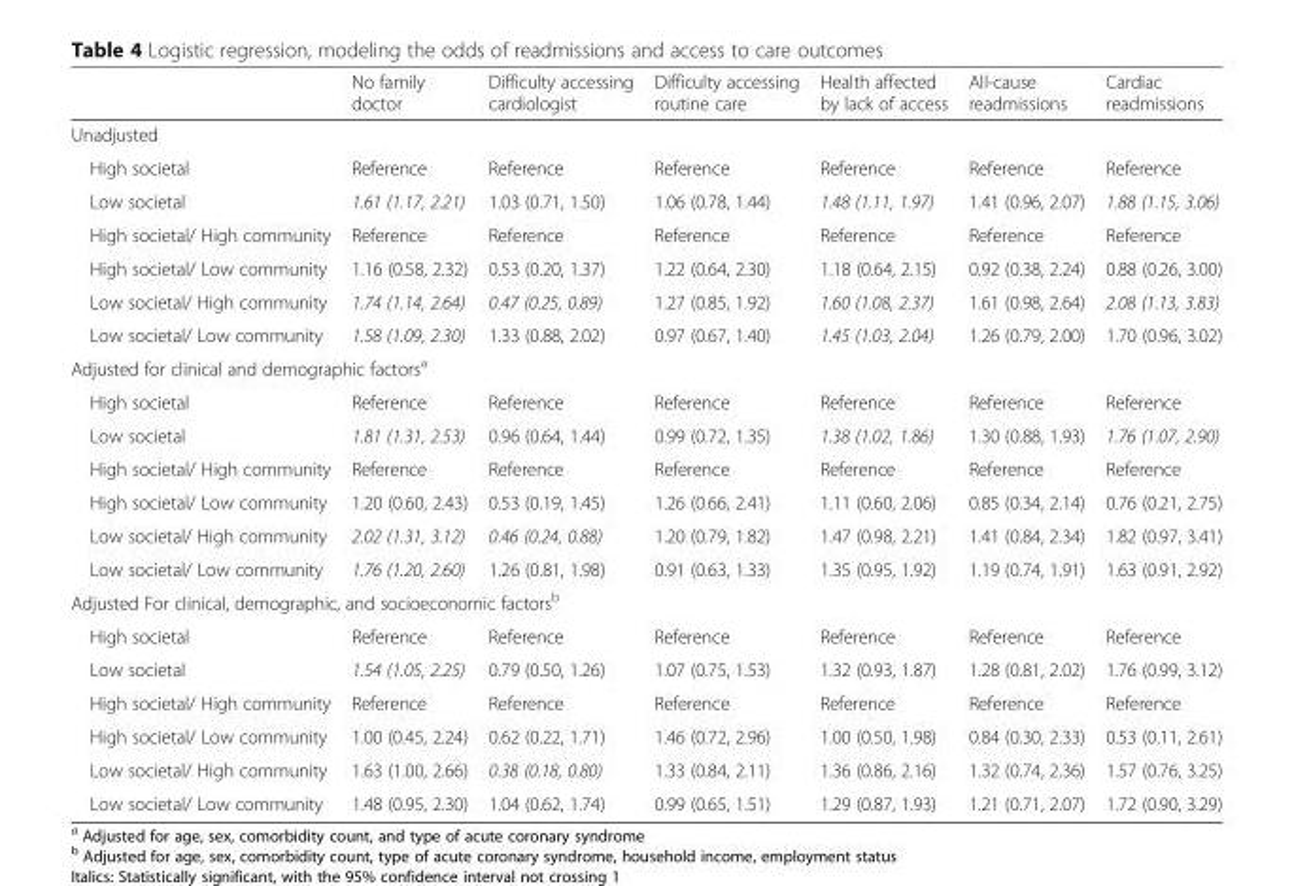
<table><thead><tr><td></td><td>No family doctor</td><td>Difficulty accessing cardiologist</td><td>Difficulty accessing routine care</td><td>Health affected by lack of access</td><td>All-cause readmissions</td><td>Cardiac readmissions</td></tr></thead><tbody><tr><td colspan="7">Unadjusted</td></tr><tr><td>High societal</td><td>Reference</td><td>Reference</td><td>Reference</td><td>Reference</td><td>Reference</td><td>Reference</td></tr><tr><td>Low societal</td><td>1.61 (1.17, 2.21)</td><td>1.03 (0.71, 1.50)</td><td>1.06 (0.78, 1.44)</td><td>1.48 (1.11, 1.97)</td><td>1.41 (0.96, 2.07)</td><td>1.88 (1.15, 3.06)</td></tr><tr><td>High societal/ High community</td><td>Reference</td><td>Reference</td><td>Reference</td><td>Reference</td><td>Reference</td><td>Reference</td></tr><tr><td>High societal/ Low community</td><td>1.16 (0.58, 2.32)</td><td>0.53 (0.20, 1.37)</td><td>1.22 (0.64, 2.30)</td><td>1.18 (0.64, 2.15)</td><td>0.92 (0.38, 2.24)</td><td>0.88 (0.26, 3.00)</td></tr><tr><td>Low societal/ High community</td><td>1.74 (1.14, 2.64)</td><td>0.47 (0.25, 0.89)</td><td>1.27 (0.85, 1.92)</td><td>1.60 (1.08, 2.37)</td><td>1.61 (0.98, 2.64)</td><td>2.08 (1.13, 3.83)</td></tr><tr><td>Low societal/ Low community</td><td>1.58 (1.09, 2.30)</td><td>1.33 (0.88, 2.02)</td><td>0.97 (0.67, 1.40)</td><td>1.45 (1.03, 2.04)</td><td>1.26 (0.79, 2.00)</td><td>1.70 (0.96, 3.02)</td></tr><tr><td colspan="7">Adjusted for clinical and demographic factors<sup>a</sup></td></tr><tr><td>High societal</td><td>Reference</td><td>Reference</td><td>Reference</td><td>Reference</td><td>Reference</td><td>Reference</td></tr><tr><td>Low societal</td><td>1.81 (1.31, 2.53)</td><td>0.96 (0.64, 1.44)</td><td>0.99 (0.72, 1.35)</td><td>1.38 (1.02, 1.86)</td><td>1.30 (0.88, 1.93)</td><td>1.76 (1.07, 2.90)</td></tr><tr><td>High societal/ High community</td><td>Reference</td><td>Reference</td><td>Reference</td><td>Reference</td><td>Reference</td><td>Reference</td></tr><tr><td>High societal/ Low community</td><td>1.20 (0.60, 2.43)</td><td>0.53 (0.19, 1.45)</td><td>1.26 (0.66, 2.41)</td><td>1.11 (0.60, 2.06)</td><td>0.85 (0.34, 2.14)</td><td>0.76 (0.21, 2.75)</td></tr><tr><td>Low societal/ High community</td><td>2.02 (1.31, 3.12)</td><td>0.46 (0.24, 0.88)</td><td>1.20 (0.79, 1.82)</td><td>1.47 (0.98, 2.21)</td><td>1.41 (0.84, 2.34)</td><td>1.82 (0.97, 3.41)</td></tr><tr><td>Low societal/ Low community</td><td>1.76 (1.20, 2.60)</td><td>1.26 (0.81, 1.98)</td><td>0.91 (0.63, 1.33)</td><td>1.35 (0.95, 1.92)</td><td>1.19 (0.74, 1.91)</td><td>1.63 (0.91, 2.92)</td></tr><tr><td colspan="7">Adjusted For clinical, demographic, and socioeconomic factors<sup>b</sup></td></tr><tr><td>High societal</td><td>Reference</td><td>Reference</td><td>Reference</td><td>Reference</td><td>Reference</td><td>Reference</td></tr><tr><td>Low societal</td><td>1.54 (1.05, 2.25)</td><td>0.79 (0.50, 1.26)</td><td>1.07 (0.75, 1.53)</td><td>1.32 (0.93, 1.87)</td><td>1.28 (0.81, 2.02)</td><td>1.76 (0.99, 3.12)</td></tr><tr><td>High societal/ High community</td><td>Reference</td><td>Reference</td><td>Reference</td><td>Reference</td><td>Reference</td><td>Reference</td></tr><tr><td>High societal/ Low community</td><td>1.00 (0.45, 2.24)</td><td>0.62 (0.22, 1.71)</td><td>1.46 (0.72, 2.96)</td><td>1.00 (0.50, 1.98)</td><td>0.84 (0.30, 2.33)</td><td>0.53 (0.11, 2.61)</td></tr><tr><td>Low societal/ High community</td><td>1.63 (1.00, 2.66)</td><td>0.38 (0.18, 0.80)</td><td>1.33 (0.84, 2.11)</td><td>1.36 (0.86, 2.16)</td><td>1.32 (0.74, 2.36)</td><td>1.57 (0.76, 3.25)</td></tr><tr><td>Low societal/ Low community</td><td>1.48 (0.95, 2.30)</td><td>1.04 (0.62, 1.74)</td><td>0.99 (0.65, 1.51)</td><td>1.29 (0.87, 1.93)</td><td>1.21 (0.71, 2.07)</td><td>1.72 (0.90, 3.29)</td></tr></tbody></table>